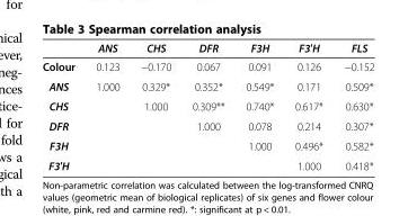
<table><thead><tr><td></td><td>ANS</td><td>CHS</td><td>DFR</td><td>F3H</td><td>F3′H</td><td>FLS</td></tr></thead><tbody><tr><td>Colour</td><td>0.123</td><td>−0.170</td><td>0.067</td><td>0.091</td><td>0.126</td><td>−0.152</td></tr><tr><td>ANS</td><td>1.000</td><td>0.329*</td><td>0.352*</td><td>0.549*</td><td>0.171</td><td>0.509*</td></tr><tr><td>CHS</td><td></td><td>1.000</td><td>0.309**</td><td>0.740*</td><td>0.617*</td><td>0.630*</td></tr><tr><td>DFR</td><td></td><td></td><td>1.000</td><td>0.078</td><td>0.214</td><td>0.307*</td></tr><tr><td>F3H</td><td></td><td></td><td></td><td>1.000</td><td>0.496*</td><td>0.582*</td></tr><tr><td>F3′H</td><td></td><td></td><td></td><td></td><td>1.000</td><td>0.418*</td></tr></tbody></table>